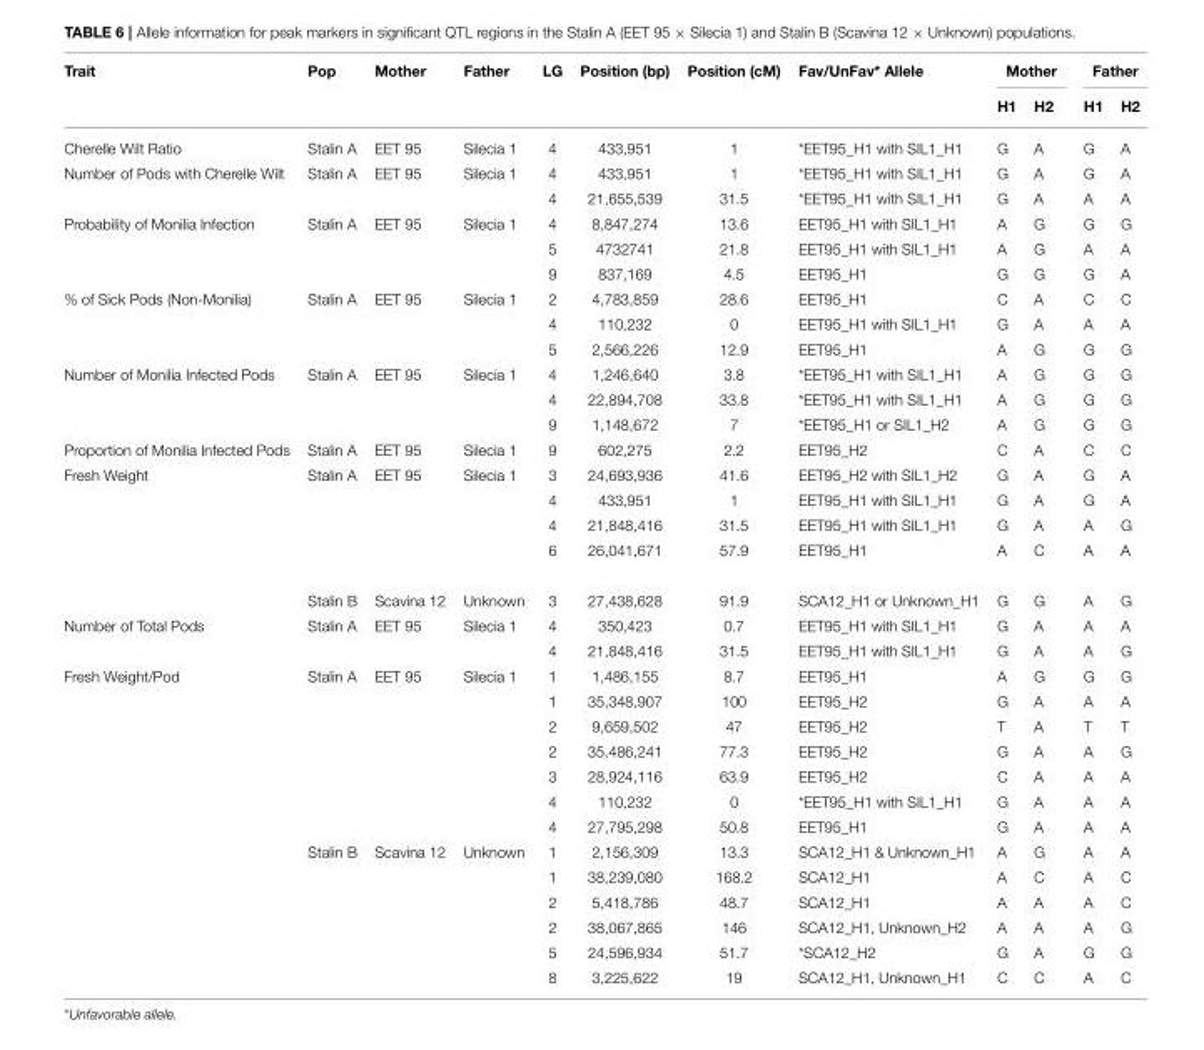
<table><thead><tr><td rowspan="2">Trait</td><td rowspan="2">Pop</td><td rowspan="2">Mother</td><td rowspan="2">Father</td><td rowspan="2">LG</td><td rowspan="2">Position (bp)</td><td rowspan="2">Position (cM)</td><td rowspan="2">Fav/UnFav* Allele</td><td colspan="2">Mother</td><td colspan="2">Father</td></tr><tr><td>H1</td><td>H2</td><td>H1</td><td>H2</td></tr></thead><tbody><tr><td>Cherelle Wilt Ratio</td><td>Stalin A</td><td>EET 95</td><td>Silecia 1</td><td>4</td><td>433,951</td><td>1</td><td>*EET95_H1 with SIL1_H1</td><td>G</td><td>A</td><td>G</td><td>A</td></tr><tr><td rowspan="2">Number of Pods with Cherelle Wilt</td><td>Stalin A</td><td>EET 95</td><td>Silecia 1</td><td>4</td><td>433,951</td><td>1</td><td>*EET95_H1 with SIL1_H1</td><td>G</td><td>A</td><td>G</td><td>A</td></tr><tr><td></td><td></td><td></td><td>4</td><td>21,655,539</td><td>31.5</td><td>*EET95_H1 with SIL1_H1</td><td>G</td><td>A</td><td>A</td><td>A</td></tr><tr><td rowspan="3">Probability of Monilia Infection</td><td>Stalin A</td><td>EET 95</td><td>Silecia 1</td><td>4</td><td>8,847,274</td><td>13.6</td><td>EET95_H1 with SIL1_H1</td><td>A</td><td>G</td><td>G</td><td>G</td></tr><tr><td></td><td></td><td></td><td>5</td><td>4732741</td><td>21.8</td><td>EET95_H1 with SIL1_H1</td><td>A</td><td>G</td><td>A</td><td>A</td></tr><tr><td></td><td></td><td></td><td>9</td><td>837,169</td><td>4.5</td><td>EET95_H1</td><td>G</td><td>G</td><td>G</td><td>A</td></tr><tr><td rowspan="3">% of Sick Pods (Non-Monilia)</td><td>Stalin A</td><td>EET 95</td><td>Silecia 1</td><td>2</td><td>4,783,859</td><td>28.6</td><td>EET95_H1</td><td>C</td><td>A</td><td>C</td><td>C</td></tr><tr><td></td><td></td><td></td><td>4</td><td>110,232</td><td>0</td><td>EET95_H1 with SIL1_H1</td><td>G</td><td>A</td><td>A</td><td>A</td></tr><tr><td></td><td></td><td></td><td>5</td><td>2,566,226</td><td>12.9</td><td>EET95_H1</td><td>A</td><td>G</td><td>G</td><td>G</td></tr><tr><td rowspan="3">Number of Monilia Infected Pods</td><td>Stalin A</td><td>EET 95</td><td>Silecia 1</td><td>4</td><td>1,246,640</td><td>3.8</td><td>*EET95_H1 with SIL1_H1</td><td>A</td><td>G</td><td>G</td><td>G</td></tr><tr><td></td><td></td><td></td><td>4</td><td>22,894,708</td><td>33.8</td><td>*EET95_H1 with SIL1_H1</td><td>A</td><td>G</td><td>G</td><td>G</td></tr><tr><td></td><td></td><td></td><td>9</td><td>1,148,672</td><td>7</td><td>*EET95_H1 or SIL1_H2</td><td>A</td><td>G</td><td>G</td><td>G</td></tr><tr><td>Proportion of Monilia Infected Pods</td><td>Stalin A</td><td>EET 95</td><td>Silecia 1</td><td>9</td><td>602,275</td><td>2.2</td><td>EET95_H2</td><td>C</td><td>A</td><td>C</td><td>C</td></tr><tr><td rowspan="5">Fresh Weight</td><td>Stalin A</td><td>EET 95</td><td>Silecia 1</td><td>3</td><td>24,693,936</td><td>41.6</td><td>EET95_H2 with SIL1_H2</td><td>G</td><td>A</td><td>G</td><td>A</td></tr><tr><td></td><td></td><td></td><td>4</td><td>433,951</td><td>1</td><td>EET95_H1 with SIL1_H1</td><td>G</td><td>A</td><td>G</td><td>A</td></tr><tr><td></td><td></td><td></td><td>4</td><td>21,848,416</td><td>31.5</td><td>EET95_H1 with SIL1_H1</td><td>G</td><td>A</td><td>A</td><td>G</td></tr><tr><td></td><td></td><td></td><td>6</td><td>26,041,671</td><td>57.9</td><td>EET95_H1</td><td>A</td><td>C</td><td>A</td><td>A</td></tr><tr><td>Stalin B</td><td>Scavina 12</td><td>Unknown</td><td>3</td><td>27,438,628</td><td>91.9</td><td>SCA12_H1 or Unknown_H1</td><td>G</td><td>G</td><td>A</td><td>G</td></tr><tr><td rowspan="2">Number of Total Pods</td><td>Stalin A</td><td>EET 95</td><td>Silecia 1</td><td>4</td><td>350,423</td><td>0.7</td><td>EET95_H1 with SIL1_H1</td><td>G</td><td>A</td><td>A</td><td>A</td></tr><tr><td></td><td></td><td></td><td>4</td><td>21,848,416</td><td>31.5</td><td>EET95_H1 with SIL1_H1</td><td>G</td><td>A</td><td>A</td><td>G</td></tr><tr><td rowspan="13">Fresh Weight/Pod</td><td>Stalin A</td><td>EET 95</td><td>Silecia 1</td><td>1</td><td>1,486,155</td><td>8.7</td><td>EET95_H1</td><td>A</td><td>G</td><td>G</td><td>G</td></tr><tr><td></td><td></td><td></td><td>1</td><td>35,348,907</td><td>100</td><td>EET95_H2</td><td>G</td><td>A</td><td>A</td><td>A</td></tr><tr><td></td><td></td><td></td><td>2</td><td>9,659,502</td><td>47</td><td>EET95_H2</td><td>T</td><td>A</td><td>T</td><td>T</td></tr><tr><td></td><td></td><td></td><td>2</td><td>35,486,241</td><td>77.3</td><td>EET95_H2</td><td>G</td><td>A</td><td>A</td><td>G</td></tr><tr><td></td><td></td><td></td><td>3</td><td>28,924,116</td><td>63.9</td><td>EET95_H2</td><td>C</td><td>A</td><td>A</td><td>A</td></tr><tr><td></td><td></td><td></td><td>4</td><td>110,232</td><td>0</td><td>*EET95_H1 with SIL1_H1</td><td>G</td><td>A</td><td>A</td><td>A</td></tr><tr><td></td><td></td><td></td><td>4</td><td>27,795,298</td><td>50.8</td><td>EET95_H1</td><td>G</td><td>A</td><td>A</td><td>A</td></tr><tr><td>Stalin B</td><td>Scavina 12</td><td>Unknown</td><td>1</td><td>2,156,309</td><td>13.3</td><td>SCA12_H1 &amp; Unknown_H1</td><td>A</td><td>G</td><td>A</td><td>A</td></tr><tr><td></td><td></td><td></td><td>1</td><td>38,239,080</td><td>168.2</td><td>SCA12_H1</td><td>A</td><td>C</td><td>A</td><td>C</td></tr><tr><td></td><td></td><td></td><td>2</td><td>5,418,786</td><td>48.7</td><td>SCA12_H1</td><td>A</td><td>A</td><td>A</td><td>C</td></tr><tr><td></td><td></td><td></td><td>2</td><td>38,067,865</td><td>146</td><td>SCA12_H1, Unknown_H2</td><td>A</td><td>A</td><td>A</td><td>G</td></tr><tr><td></td><td></td><td></td><td>5</td><td>24,596,934</td><td>51.7</td><td>*SCA12_H2</td><td>G</td><td>A</td><td>G</td><td>G</td></tr><tr><td></td><td></td><td></td><td>8</td><td>3,225,622</td><td>19</td><td>SCA12_H1, Unknown_H1</td><td>C</td><td>C</td><td>A</td><td>C</td></tr></tbody></table>